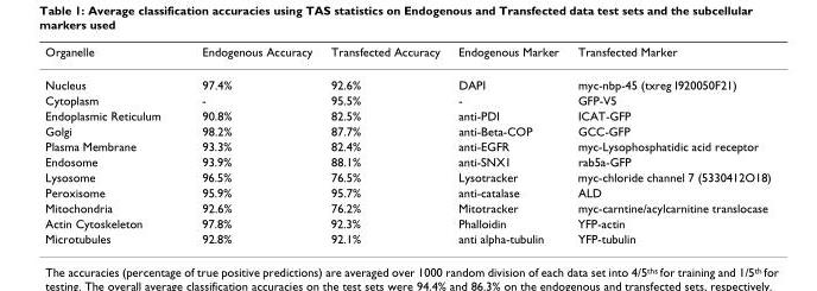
<table><thead><tr><td>Organelle</td><td>Endogenous Accuracy</td><td>Transfected Accuracy</td><td>Endogenous Marker</td><td>Transfected Marker</td></tr></thead><tbody><tr><td>Nucleus</td><td>97.4%</td><td>92.6%</td><td>DAPI</td><td>myc-nbp-45 (txreg I920050F21)</td></tr><tr><td>Cytoplasm</td><td>-</td><td>95.5%</td><td>-</td><td>GFP-V5</td></tr><tr><td>Endoplasmic Reticulum</td><td>90.8%</td><td>82.5%</td><td>anti-PDI</td><td>ICAT-GFP</td></tr><tr><td>Golgi</td><td>98.2%</td><td>87.7%</td><td>anti-Beta-COP</td><td>GCC-GFP</td></tr><tr><td>Plasma Membrane</td><td>93.3%</td><td>82.4%</td><td>anti-EGFR</td><td>myc-Lysophosphatidic acid receptor</td></tr><tr><td>Endosome</td><td>93.9%</td><td>88.1%</td><td>anti-SNX1</td><td>rab5a-GFP</td></tr><tr><td>Lysosome</td><td>96.5%</td><td>76.5%</td><td>Lysotracker</td><td>myc-chloride channel 7 (5330412O18)</td></tr><tr><td>Peroxisome</td><td>95.9%</td><td>95.7%</td><td>anti-catalase</td><td>ALD</td></tr><tr><td>Mitochondria</td><td>92.6%</td><td>76.2%</td><td>Mitotracker</td><td>myc-carntine/acylcarnitine translocase</td></tr><tr><td>Actin Cytoskeleton</td><td>97.8%</td><td>92.3%</td><td>Phalloidin</td><td>YFP-actin</td></tr><tr><td>Microtubules</td><td>92.8%</td><td>92.1%</td><td>anti alpha-tubulin</td><td>YFP-tubulin</td></tr></tbody></table>